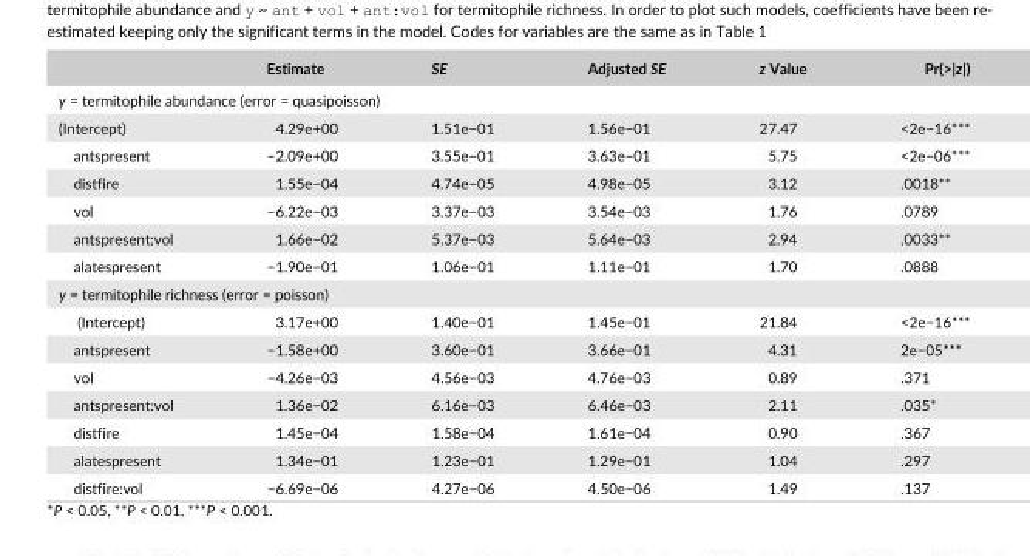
<table><thead><tr><td></td><td>Estimate</td><td>SE</td><td>Adjusted SE</td><td>z Value</td><td>Pr(&gt;|z|)</td></tr></thead><tbody><tr><td colspan="6">y = termitophile abundance (error = quasipoisson)</td></tr><tr><td>(Intercept)</td><td>4.29e+00</td><td>1.51e−01</td><td>1.56e−01</td><td>27.47</td><td>&lt;2e−16***</td></tr><tr><td>antspresent</td><td>−2.09e+00</td><td>3.55e−01</td><td>3.63e−01</td><td>5.75</td><td>&lt;2e−06***</td></tr><tr><td>distfire</td><td>1.55e−04</td><td>4.74e−05</td><td>4.98e−05</td><td>3.12</td><td>.0018**</td></tr><tr><td>vol</td><td>−6.22e−03</td><td>3.37e−03</td><td>3.54e−03</td><td>1.76</td><td>.0789</td></tr><tr><td>antspresent:vol</td><td>1.66e−02</td><td>5.37e−03</td><td>5.64e−03</td><td>2.94</td><td>.0033**</td></tr><tr><td>alatespresent</td><td>−1.90e−01</td><td>1.06e−01</td><td>1.11e−01</td><td>1.70</td><td>.0888</td></tr><tr><td colspan="6">y = termitophile richness (error = poisson)</td></tr><tr><td>(Intercept)</td><td>3.17e+00</td><td>1.40e−01</td><td>1.45e−01</td><td>21.84</td><td>&lt;2e−16***</td></tr><tr><td>antspresent</td><td>−1.58e+00</td><td>3.60e−01</td><td>3.66e−01</td><td>4.31</td><td>2e−05***</td></tr><tr><td>vol</td><td>−4.26e−03</td><td>4.56e−03</td><td>4.76e−03</td><td>0.89</td><td>.371</td></tr><tr><td>antspresent:vol</td><td>1.36e−02</td><td>6.16e−03</td><td>6.46e−03</td><td>2.11</td><td>.035*</td></tr><tr><td>distfire</td><td>1.45e−04</td><td>1.58e−04</td><td>1.61e−04</td><td>0.90</td><td>.367</td></tr><tr><td>alatespresent</td><td>1.34e−01</td><td>1.23e−01</td><td>1.29e−01</td><td>1.04</td><td>.297</td></tr><tr><td>distfire:vol</td><td>−6.69e−06</td><td>4.27e−06</td><td>4.50e−06</td><td>1.49</td><td>.137</td></tr></tbody></table>